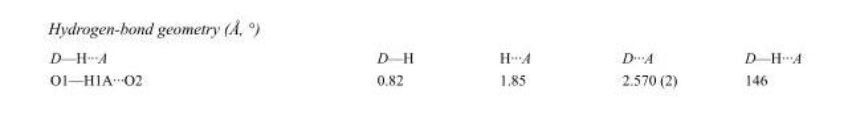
<table><tbody><tr><td>D—H···A</td><td>D—H</td><td>H···A</td><td>D···A</td><td>D—H···A</td></tr><tr><td>O1—H1A···O2</td><td>0.82</td><td>1.85</td><td>2.570 (2)</td><td>146</td></tr></tbody></table>